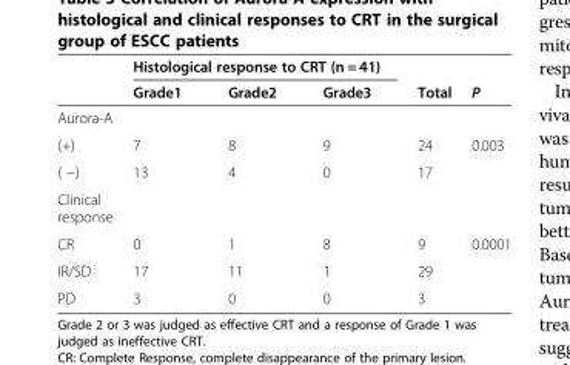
<table><thead><tr><td rowspan="2"></td><td colspan="3">Histological response to CRT (n = 41)</td><td rowspan="2">Total</td><td rowspan="2">P</td></tr><tr><td>Grade1</td><td>Grade2</td><td>Grade3</td></tr></thead><tbody><tr><td colspan="6">Aurora-A</td></tr><tr><td>(+)</td><td>7</td><td>8</td><td>9</td><td>24</td><td>0.003</td></tr><tr><td>( −)</td><td>13</td><td>4</td><td>0</td><td>17</td><td></td></tr><tr><td colspan="6">Clinical response</td></tr><tr><td>CR</td><td>0</td><td>1</td><td>8</td><td>9</td><td>0.0001</td></tr><tr><td>IR/SD</td><td>17</td><td>11</td><td>1</td><td>29</td><td></td></tr><tr><td>PD</td><td>3</td><td>0</td><td>0</td><td>3</td><td></td></tr></tbody></table>